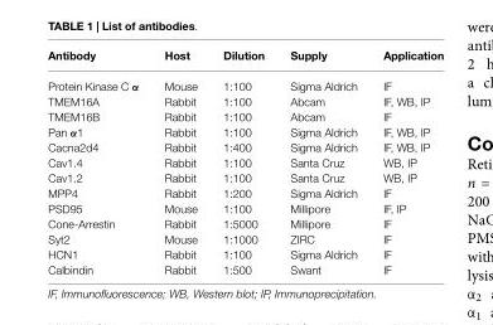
<table><thead><tr><td>Antibody</td><td>Host</td><td>Dilution</td><td>Supply</td><td>Application</td></tr></thead><tbody><tr><td>Protein Kinase C α</td><td>Mouse</td><td>1:100</td><td>Sigma Aldrich</td><td>IF</td></tr><tr><td>TMEM16A</td><td>Rabbit</td><td>1:100</td><td>Abcam</td><td>IF, WB, IP</td></tr><tr><td>TMEM16B</td><td>Rabbit</td><td>1:100</td><td>Abcam</td><td>IF</td></tr><tr><td>Pan α1</td><td>Rabbit</td><td>1:100</td><td>Sigma Aldrich</td><td>IF, WB, IP</td></tr><tr><td>Cacna2d4</td><td>Rabbit</td><td>1:400</td><td>Sigma Aldrich</td><td>IF, WB, IP</td></tr><tr><td>Cav1.4</td><td>Rabbit</td><td>1:100</td><td>Santa Cruz</td><td>WB, IP</td></tr><tr><td>Cav1.2</td><td>Rabbit</td><td>1:100</td><td>Santa Cruz</td><td>WB, IP</td></tr><tr><td>MPP4</td><td>Rabbit</td><td>1:200</td><td>Sigma Aldrich</td><td>IF</td></tr><tr><td>PSD95</td><td>Mouse</td><td>1:100</td><td>Millipore</td><td>IF, IP</td></tr><tr><td>Cone-Arrestin</td><td>Rabbit</td><td>1:5000</td><td>Millipore</td><td>IF</td></tr><tr><td>Syt2</td><td>Mouse</td><td>1:1000</td><td>ZIRC</td><td>IF</td></tr><tr><td>HCN1</td><td>Rabbit</td><td>1:100</td><td>Sigma Aldrich</td><td>IF</td></tr><tr><td>Calbindin</td><td>Rabbit</td><td>1:500</td><td>Swant</td><td>IF</td></tr></tbody></table>